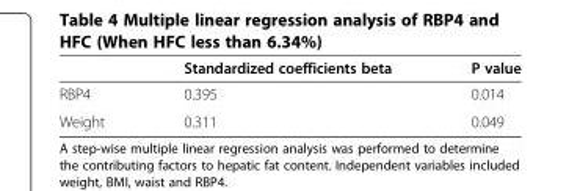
<table><thead><tr><td></td><td>Standardized coefficients beta</td><td>P value</td></tr></thead><tbody><tr><td>RBP4</td><td>0.395</td><td>0.014</td></tr><tr><td>Weight</td><td>0.311</td><td>0.049</td></tr></tbody></table>